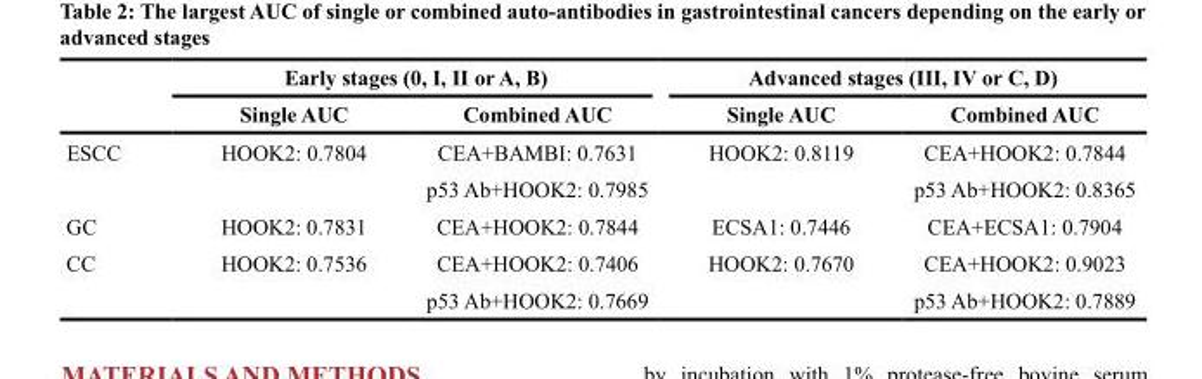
<table><thead><tr><td rowspan="2"></td><td colspan="2">Early stages (0, I, II or A, B)</td><td colspan="2">Advanced stages (III, IV or C, D)</td></tr><tr><td>Single AUC</td><td>Combined AUC</td><td>Single AUC</td><td>Combined AUC</td></tr></thead><tbody><tr><td rowspan="2">ESCC</td><td>HOOK2: 0.7804</td><td>CEA+BAMBI: 0.7631</td><td>HOOK2: 0.8119</td><td>CEA+HOOK2: 0.7844</td></tr><tr><td></td><td>p53 Ab+HOOK2: 0.7985</td><td></td><td>p53 Ab+HOOK2: 0.8365</td></tr><tr><td>GC</td><td>HOOK2: 0.7831</td><td>CEA+HOOK2: 0.7844</td><td>ECSA1: 0.7446</td><td>CEA+ECSA1: 0.7904</td></tr><tr><td rowspan="2">CC</td><td>HOOK2: 0.7536</td><td>CEA+HOOK2: 0.7406</td><td>HOOK2: 0.7670</td><td>CEA+HOOK2: 0.9023</td></tr><tr><td></td><td>p53 Ab+HOOK2: 0.7669</td><td></td><td>p53 Ab+HOOK2: 0.7889</td></tr></tbody></table>